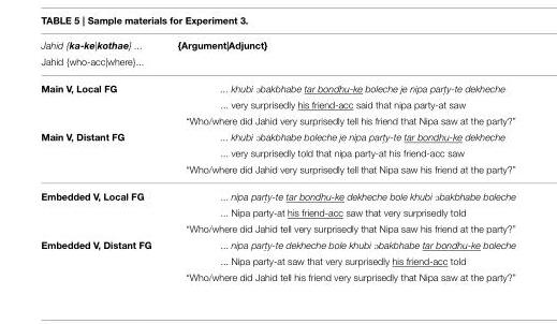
<table><tbody><tr><td>Jahid {ka-ke|kothae} ...</td><td>{Argument|Adjunct}</td></tr><tr><td colspan="2">Jahid {who-acc|where}...</td></tr><tr><td rowspan="3">Main V, Local FG</td><td>... khubi Obakbhabe tar bondhu-ke boleche je nipa part.y-te dekheche</td></tr><tr><td>... very surprisedly his friend-acc said that nipa party-at saw</td></tr><tr><td>“Who/where did Jahid very surprisedly tell his friend that Nipa saw at the party?”</td></tr><tr><td rowspan="3">Main V, Distant FG</td><td>... khubi Obakbhabe boleche je nipa part.y-te tar bondhu-ke dekheche</td></tr><tr><td>... very surprisedly told that nipa party-at his friend-acc saw</td></tr><tr><td>“Who/where did Jahid very surprisedly tell that Nipa saw his friend at the party?”</td></tr><tr><td rowspan="3">Embedded V, Local FG</td><td>... nipa part.y-te tar bondhu-ke dekheche bole khubi Obakbhabe boleche</td></tr><tr><td>... Nipa party-at his friend-acc saw that very surprisedly told</td></tr><tr><td>“Who/where did Jahid tell very surprisedly that Nipa saw his friend at the party?”</td></tr><tr><td rowspan="3">Embedded V, Distant FG</td><td>... nipa part.y-te dekheche bole khubi Obakbhabe tar bondhu-ke boleche</td></tr><tr><td>... Nipa party-at saw that very surprisedly his friend-acc told</td></tr><tr><td>“Who/where did Jahid tell his friend very surprisedly that Nipa saw at the party?”</td></tr></tbody></table>